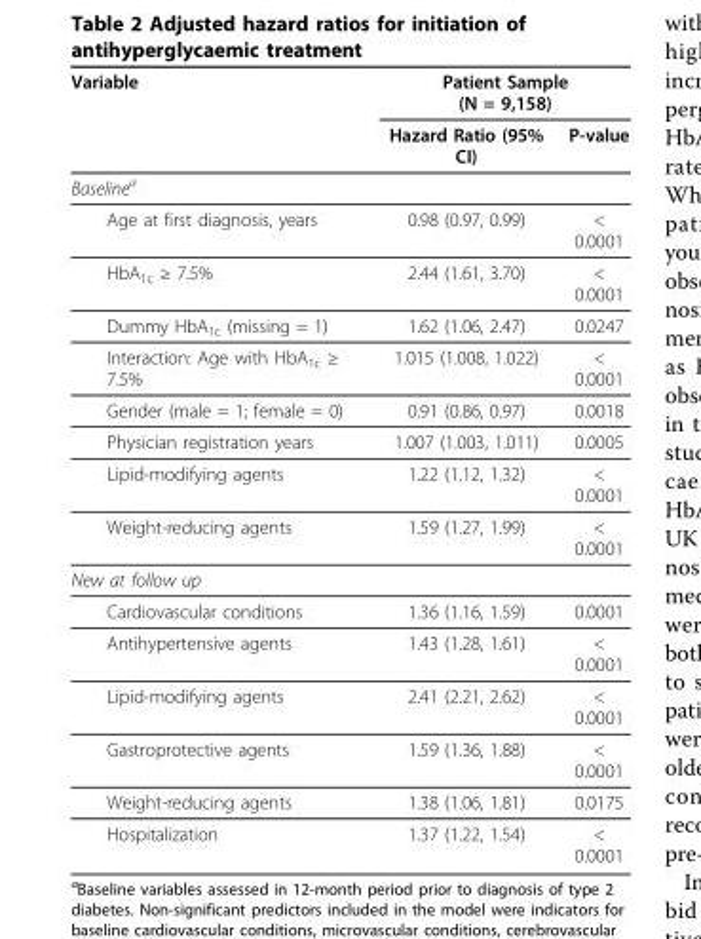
<table><thead><tr><td rowspan="2">Variable</td><td colspan="2">Patient Sample (N = 9,158)</td></tr><tr><td>Hazard Ratio (95% CI)</td><td>P-value</td></tr></thead><tbody><tr><td colspan="3">Baseline<sup>a</sup></td></tr><tr><td>Age at first diagnosis, years</td><td>0.98 (0.97, 0.99)</td><td>&lt; 0.0001</td></tr><tr><td>HbA<sub>1c</sub> ≥ 7.5%</td><td>2.44 (1.61, 3.70)</td><td>&lt; 0.0001</td></tr><tr><td>Dummy HbA<sub>1c</sub> (missing = 1)</td><td>1.62 (1.06, 2.47)</td><td>0.0247</td></tr><tr><td>Interaction: Age with HbA<sub>1c</sub> ≥ 7.5%</td><td>1.015 (1.008, 1.022)</td><td>&lt; 0.0001</td></tr><tr><td>Gender (male = 1; female = 0)</td><td>0.91 (0.86, 0.97)</td><td>0.0018</td></tr><tr><td>Physician registration years</td><td>1.007 (1.003, 1.011)</td><td>0.0005</td></tr><tr><td>Lipid-modifying agents</td><td>1.22 (1.12, 1.32)</td><td>&lt; 0.0001</td></tr><tr><td>Weight-reducing agents</td><td>1.59 (1.27, 1.99)</td><td>&lt; 0.0001</td></tr><tr><td colspan="3">New at follow up</td></tr><tr><td>Cardiovascular conditions</td><td>1.36 (1.16, 1.59)</td><td>0.0001</td></tr><tr><td>Antihypertensive agents</td><td>1.43 (1.28, 1.61)</td><td>&lt; 0.0001</td></tr><tr><td>Lipid-modifying agents</td><td>2.41 (2.21, 2.62)</td><td>&lt; 0.0001</td></tr><tr><td>Gastroprotective agents</td><td>1.59 (1.36, 1.88)</td><td>&lt; 0.0001</td></tr><tr><td>Weight-reducing agents</td><td>1.38 (1.06, 1.81)</td><td>0.0175</td></tr><tr><td>Hospitalization</td><td>1.37 (1.22, 1.54)</td><td>&lt; 0.0001</td></tr></tbody></table>